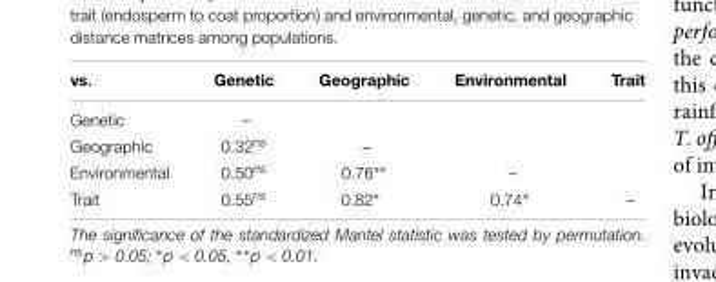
<table><thead><tr><td>vs.</td><td>Genetic</td><td>Geographic</td><td>Environmental</td><td>Trait</td></tr></thead><tbody><tr><td>Genetic</td><td>–</td><td></td><td></td><td></td></tr><tr><td>Geographic</td><td>0.32<sup>ns</sup></td><td>–</td><td></td><td></td></tr><tr><td>Environmental</td><td>0.50<sup>ns</sup></td><td>0.76∗∗</td><td>–</td><td></td></tr><tr><td>Trait</td><td>0.55<sup>ns</sup></td><td>0.82∗</td><td>0.74∗</td><td>–</td></tr></tbody></table>